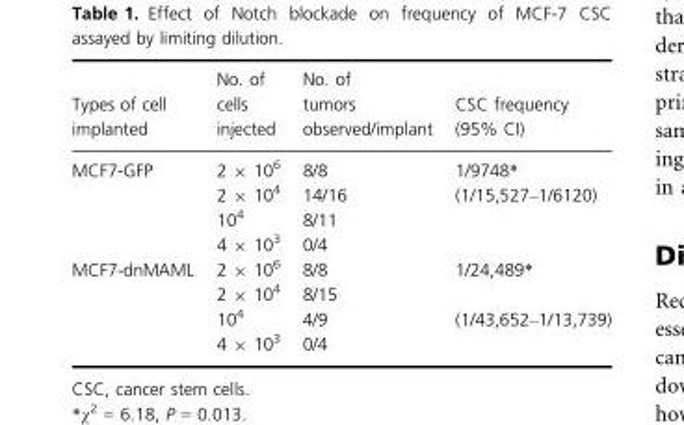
<table><thead><tr><td>Types of cell implanted</td><td>No. of cells injected</td><td>No. of tumors observed/implant</td><td>CSC frequency (95% CI)</td></tr></thead><tbody><tr><td rowspan="4">MCF7-GFP</td><td>2 × 10<sup>6</sup></td><td>8/8</td><td>1/9748*</td></tr><tr><td>2 × 10<sup>4</sup></td><td>14/16</td><td>(1/15,527–1/6120)</td></tr><tr><td>10<sup>4</sup></td><td>8/11</td><td></td></tr><tr><td>4 × 10<sup>3</sup></td><td>0/4</td><td></td></tr><tr><td rowspan="4">MCF7-dnMAML</td><td>2 × 10<sup>6</sup></td><td>8/8</td><td>1/24,489*</td></tr><tr><td>2 × 10<sup>4</sup></td><td>8/15</td><td></td></tr><tr><td>10<sup>4</sup></td><td>4/9</td><td>(1/43,652–1/13,739)</td></tr><tr><td>4 × 10<sup>3</sup></td><td>0/4</td><td></td></tr></tbody></table>